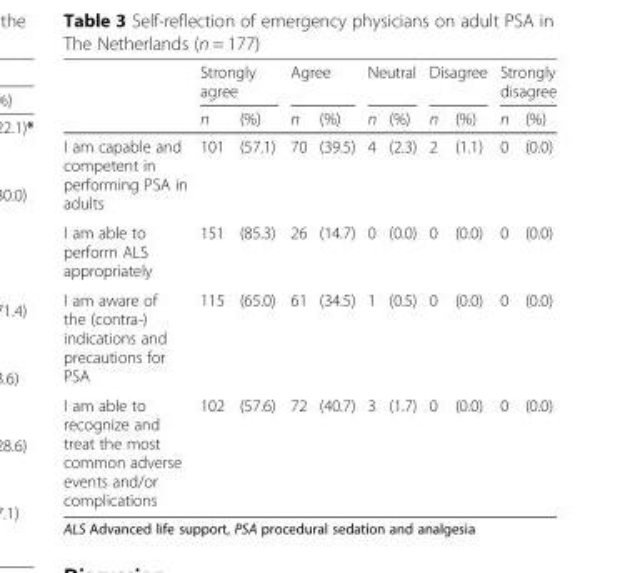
<table><thead><tr><td rowspan="2"></td><td colspan="2">Strongly agree</td><td colspan="2">Agree</td><td colspan="2">Neutral</td><td colspan="2">Disagree</td><td colspan="2">Strongly disagree</td></tr><tr><td>n</td><td>(%)</td><td>n</td><td>(%)</td><td>n</td><td>(%)</td><td>n</td><td>(%)</td><td>n</td><td>(%)</td></tr></thead><tbody><tr><td>I am capable and competent in performing PSA in adults</td><td>101</td><td>(57.1)</td><td>70</td><td>(39.5)</td><td>4</td><td>(2.3)</td><td>2</td><td>(1.1)</td><td>0</td><td>(0.0)</td></tr><tr><td>I am able to perform ALS appropriately</td><td>151</td><td>(85.3)</td><td>26</td><td>(14.7)</td><td>0</td><td>(0.0)</td><td>0</td><td>(0.0)</td><td>0</td><td>(0.0)</td></tr><tr><td>I am aware of the (contra-) indications and precautions for PSA</td><td>115</td><td>(65.0)</td><td>61</td><td>(34.5)</td><td>1</td><td>(0.5)</td><td>0</td><td>(0.0)</td><td>0</td><td>(0.0)</td></tr><tr><td>I am able to recognize and treat the most common adverse events and/or complications</td><td>102</td><td>(57.6)</td><td>72</td><td>(40.7)</td><td>3</td><td>(1.7)</td><td>0</td><td>(0.0)</td><td>0</td><td>(0.0)</td></tr></tbody></table>